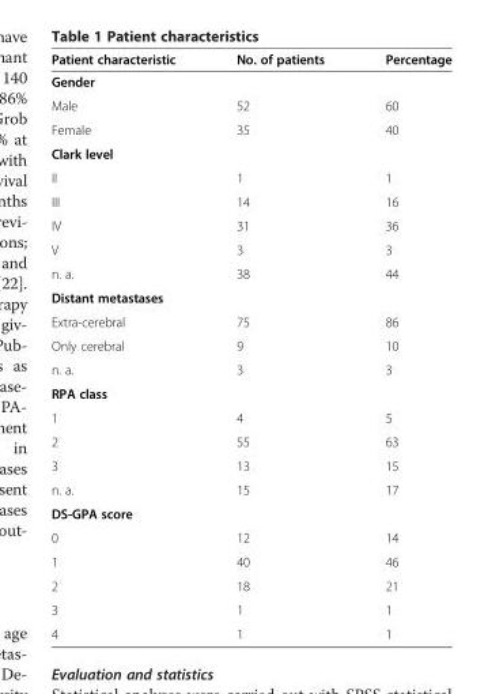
<table><thead><tr><td>Patient characteristic</td><td>No. of patients</td><td>Percentage</td></tr></thead><tbody><tr><td colspan="3">Gender</td></tr><tr><td>Male</td><td>52</td><td>60</td></tr><tr><td>Female</td><td>35</td><td>40</td></tr><tr><td colspan="3">Clark level</td></tr><tr><td>II</td><td>1</td><td>1</td></tr><tr><td>III</td><td>14</td><td>16</td></tr><tr><td>IV</td><td>31</td><td>36</td></tr><tr><td>V</td><td>3</td><td>3</td></tr><tr><td>n. a.</td><td>38</td><td>44</td></tr><tr><td colspan="3">Distant metastases</td></tr><tr><td>Extra-cerebral</td><td>75</td><td>86</td></tr><tr><td>Only cerebral</td><td>9</td><td>10</td></tr><tr><td>n. a.</td><td>3</td><td>3</td></tr><tr><td colspan="3">RPA class</td></tr><tr><td>1</td><td>4</td><td>5</td></tr><tr><td>2</td><td>55</td><td>63</td></tr><tr><td>3</td><td>13</td><td>15</td></tr><tr><td>n. a.</td><td>15</td><td>17</td></tr><tr><td colspan="3">DS-GPA score</td></tr><tr><td>0</td><td>12</td><td>14</td></tr><tr><td>1</td><td>40</td><td>46</td></tr><tr><td>2</td><td>18</td><td>21</td></tr><tr><td>3</td><td>1</td><td>1</td></tr><tr><td>4</td><td>1</td><td>1</td></tr></tbody></table>